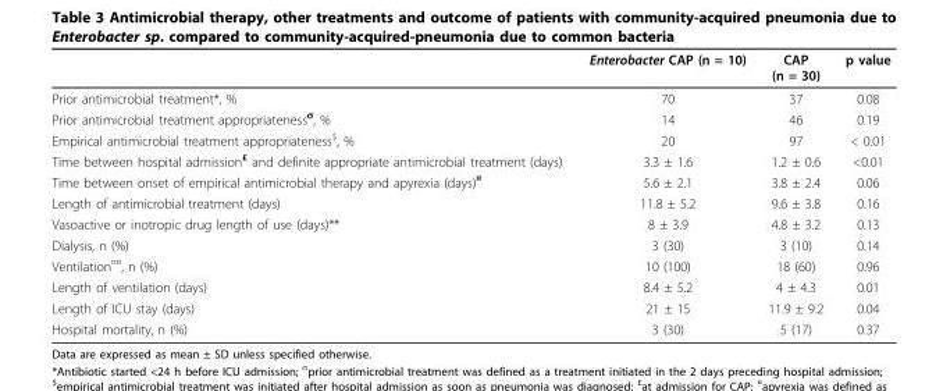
<table><thead><tr><td></td><td>Enterobacter CAP (n = 10)</td><td>CAP (n = 30)</td><td>p value</td></tr></thead><tbody><tr><td>Prior antimicrobial treatment*, %</td><td>70</td><td>37</td><td>0.08</td></tr><tr><td>Prior antimicrobial treatment appropriateness<sup>σ</sup>, %</td><td>14</td><td>46</td><td>0.19</td></tr><tr><td>Empirical antimicrobial treatment appropriateness<sup>$</sup>, %</td><td>20</td><td>97</td><td>&lt; 0.01</td></tr><tr><td>Time between hospital admission<sup>£</sup> and definite appropriate antimicrobial treatment (days)</td><td>3.3 ± 1.6</td><td>1.2 ± 0.6</td><td>&lt;0.01</td></tr><tr><td>Time between onset of empirical antimicrobial therapy and apyrexia (days)<sup>¤</sup></td><td>5.6 ± 2.1</td><td>3.8 ± 2.4</td><td>0.06</td></tr><tr><td>Length of antimicrobial treatment (days)</td><td>11.8 ± 5.2</td><td>9.6 ± 3.8</td><td>0.16</td></tr><tr><td>Vasoactive or inotropic drug length of use (days)**</td><td>8 ± 3.9</td><td>4.8 ± 3.2</td><td>0.13</td></tr><tr><td>Dialysis, n (%)</td><td>3 (30)</td><td>3 (10)</td><td>0.14</td></tr><tr><td>Ventilation<sup>¤¤</sup>, n (%)</td><td>10 (100)</td><td>18 (60)</td><td>0.96</td></tr><tr><td>Length of ventilation (days)</td><td>8.4 ± 5.2</td><td>4 ± 4.3</td><td>0.01</td></tr><tr><td>Length of ICU stay (days)</td><td>21 ± 15</td><td>11.9 ± 9.2</td><td>0.04</td></tr><tr><td>Hospital mortality, n (%)</td><td>3 (30)</td><td>5 (17)</td><td>0.37</td></tr></tbody></table>